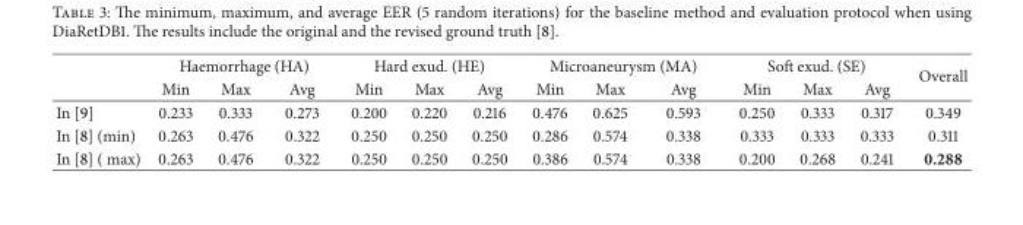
<table><thead><tr><td rowspan="2"></td><td colspan="3">Haemorrhage (HA)</td><td colspan="3">Hard exud. (HE)</td><td colspan="3">Microaneurysm (MA)</td><td colspan="3">Soft exud. (SE)</td><td rowspan="2">Overall</td></tr><tr><td>Min</td><td>Max</td><td>Avg</td><td>Min</td><td>Max</td><td>Avg</td><td>Min</td><td>Max</td><td>Avg</td><td>Min</td><td>Max</td><td>Avg</td></tr></thead><tbody><tr><td>In [9]</td><td>0.233</td><td>0.333</td><td>0.273</td><td>0.200</td><td>0.220</td><td>0.216</td><td>0.476</td><td>0.625</td><td>0.593</td><td>0.250</td><td>0.333</td><td>0.317</td><td>0.349</td></tr><tr><td>In [8] (min)</td><td>0.263</td><td>0.476</td><td>0.322</td><td>0.250</td><td>0.250</td><td>0.250</td><td>0.286</td><td>0.574</td><td>0.338</td><td>0.333</td><td>0.333</td><td>0.333</td><td>0.311</td></tr><tr><td>In [8] ( max)</td><td>0.263</td><td>0.476</td><td>0.322</td><td>0.250</td><td>0.250</td><td>0.250</td><td>0.386</td><td>0.574</td><td>0.338</td><td>0.200</td><td>0.268</td><td>0.241</td><td>0.288</td></tr></tbody></table>